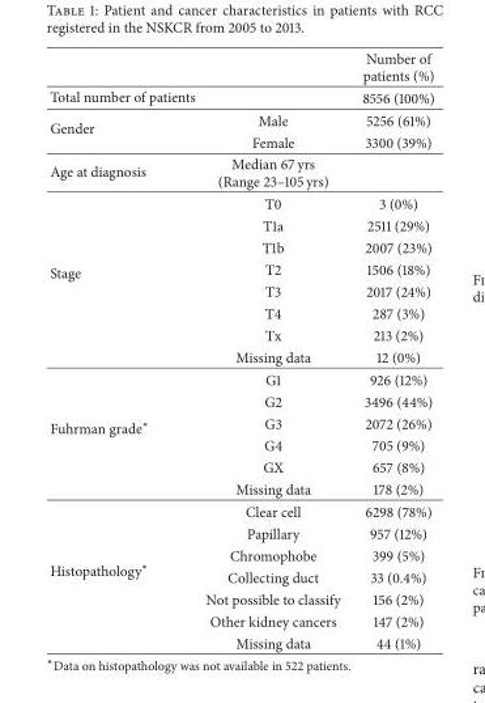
<table><thead><tr><td></td><td></td><td>Number of patients (%)</td></tr></thead><tbody><tr><td>Total number of patients</td><td></td><td>8556 (100%)</td></tr><tr><td rowspan="2">Gender</td><td>Male</td><td>5256 (61%)</td></tr><tr><td>Female</td><td>3300 (39%)</td></tr><tr><td>Age at diagnosis</td><td>Median 67 yrs (Range 23–105 yrs)</td><td></td></tr><tr><td rowspan="8">Stage</td><td>T0</td><td>3 (0%)</td></tr><tr><td>T1a</td><td>2511 (29%)</td></tr><tr><td>T1b</td><td>2007 (23%)</td></tr><tr><td>T2</td><td>1506 (18%)</td></tr><tr><td>T3</td><td>2017 (24%)</td></tr><tr><td>T4</td><td>287 (3%)</td></tr><tr><td>Tx</td><td>213 (2%)</td></tr><tr><td>Missing data</td><td>12 (0%)</td></tr><tr><td rowspan="6">Fuhrman grade∗</td><td>G1</td><td>926 (12%)</td></tr><tr><td>G2</td><td>3496 (44%)</td></tr><tr><td>G3</td><td>2072 (26%)</td></tr><tr><td>G4</td><td>705 (9%)</td></tr><tr><td>GX</td><td>657 (8%)</td></tr><tr><td>Missing data</td><td>178 (2%)</td></tr><tr><td rowspan="7">Histopathology∗</td><td>Clear cell</td><td>6298 (78%)</td></tr><tr><td>Papillary</td><td>957 (12%)</td></tr><tr><td>Chromophobe</td><td>399 (5%)</td></tr><tr><td>Collecting duct</td><td>33 (0.4%)</td></tr><tr><td>Not possible to classify</td><td>156 (2%)</td></tr><tr><td>Other kidney cancers</td><td>147 (2%)</td></tr><tr><td>Missing data</td><td>44 (1%)</td></tr></tbody></table>